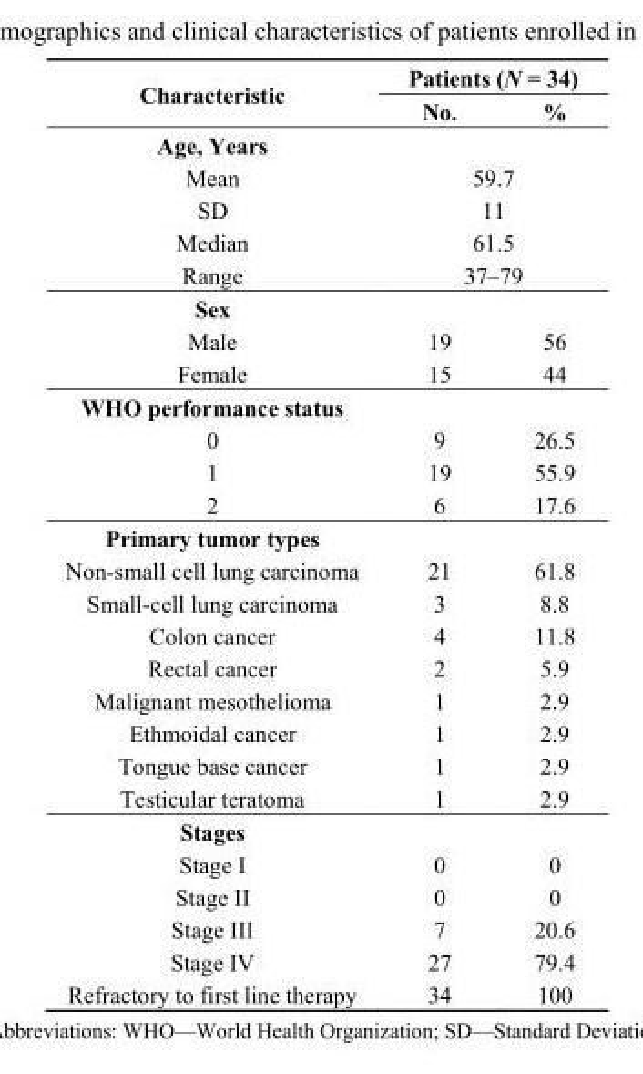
<table><thead><tr><td rowspan="2">Characteristic</td><td colspan="2">Patients (N = 34)</td></tr><tr><td>No.</td><td>%</td></tr></thead><tbody><tr><td colspan="3">Age, Years</td></tr><tr><td>Mean</td><td colspan="2">59.7</td></tr><tr><td>SD</td><td colspan="2">11</td></tr><tr><td>Median</td><td colspan="2">61.5</td></tr><tr><td>Range</td><td colspan="2">37–79</td></tr><tr><td colspan="3">Sex</td></tr><tr><td>Male</td><td>19</td><td>56</td></tr><tr><td>Female</td><td>15</td><td>44</td></tr><tr><td colspan="3">WHO performance status</td></tr><tr><td>0</td><td>9</td><td>26.5</td></tr><tr><td>1</td><td>19</td><td>55.9</td></tr><tr><td>2</td><td>6</td><td>17.6</td></tr><tr><td colspan="3">Primary tumor types</td></tr><tr><td>Non-small cell lung carcinoma</td><td>21</td><td>61.8</td></tr><tr><td>Small-cell lung carcinoma</td><td>3</td><td>8.8</td></tr><tr><td>Colon cancer</td><td>4</td><td>11.8</td></tr><tr><td>Rectal cancer</td><td>2</td><td>5.9</td></tr><tr><td>Malignant mesothelioma</td><td>1</td><td>2.9</td></tr><tr><td>Ethmoidal cancer</td><td>1</td><td>2.9</td></tr><tr><td>Tongue base cancer</td><td>1</td><td>2.9</td></tr><tr><td>Testicular teratoma</td><td>1</td><td>2.9</td></tr><tr><td colspan="3">Stages</td></tr><tr><td>Stage I</td><td>0</td><td>0</td></tr><tr><td>Stage II</td><td>0</td><td>0</td></tr><tr><td>Stage III</td><td>7</td><td>20.6</td></tr><tr><td>Stage IV</td><td>27</td><td>79.4</td></tr><tr><td>Refractory to first line therapy</td><td>34</td><td>100</td></tr></tbody></table>